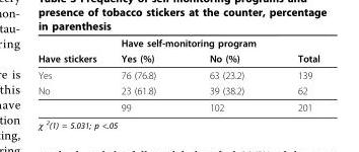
<table><thead><tr><td rowspan="2">Have stickers</td><td colspan="2">Have self-monitoring program</td><td rowspan="2">Total</td></tr><tr><td>Yes (%)</td><td>No (%)</td></tr></thead><tbody><tr><td>Yes</td><td>76 (76.8)</td><td>63 (23.2)</td><td>139</td></tr><tr><td rowspan="2">No</td><td>23 (61.8)</td><td>39 (38.2)</td><td>62</td></tr><tr><td>99</td><td>102</td><td>201</td></tr></tbody></table>